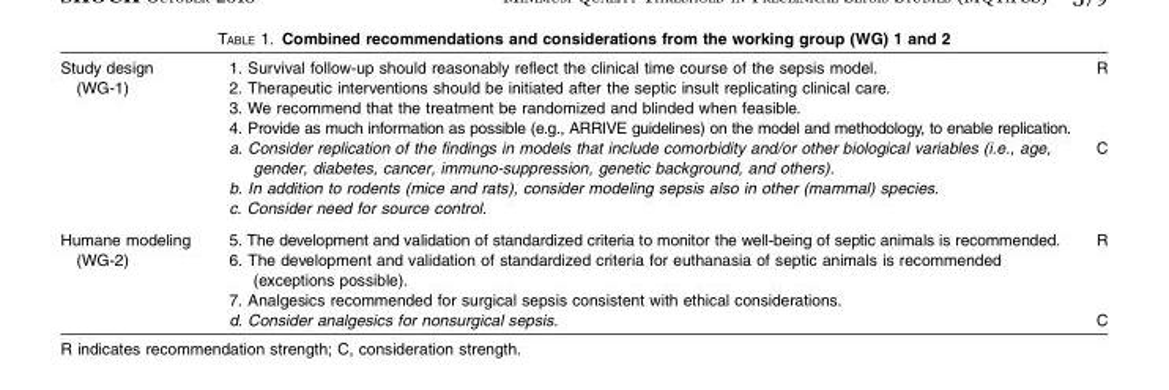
<table><tbody><tr><td rowspan="7">Study design (WG-1)</td><td>1. Survival follow-up should reasonably reflect the clinical time course of the sepsis model.</td><td>R</td></tr><tr><td>2. Therapeutic interventions should be initiated after the septic insult replicating clinical care.</td><td></td></tr><tr><td>3. We recommend that the treatment be randomized and blinded when feasible.</td><td></td></tr><tr><td>4. Provide as much information as possible (e.g., ARRIVE guidelines) on the model and methodology, to enable replication.</td><td></td></tr><tr><td>a. Consider replication of the findings in models that include comorbidity and/or other biological variables (i.e., age, gender, diabetes, cancer, immuno-suppression, genetic background, and others).</td><td>C</td></tr><tr><td>b. In addition to rodents (mice and rats), consider modeling sepsis also in other (mammal) species.</td><td></td></tr><tr><td>c. Consider need for source control.</td><td></td></tr><tr><td rowspan="4">Humane modeling (WG-2)</td><td>5. The development and validation of standardized criteria to monitor the well-being of septic animals is recommended.</td><td>R</td></tr><tr><td>6. The development and validation of standardized criteria for euthanasia of septic animals is recommended (exceptions possible).</td><td></td></tr><tr><td>7. Analgesics recommended for surgical sepsis consistent with ethical considerations.</td><td></td></tr><tr><td>d. Consider analgesics for nonsurgical sepsis.</td><td>C</td></tr></tbody></table>